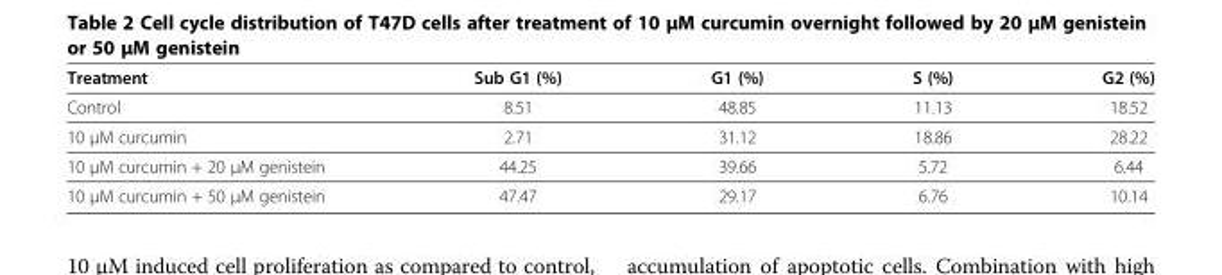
<table><thead><tr><td>Treatment</td><td>Sub G1 (%)</td><td>G1 (%)</td><td>S (%)</td><td>G2 (%)</td></tr></thead><tbody><tr><td>Control</td><td>8.51</td><td>48.85</td><td>11.13</td><td>18.52</td></tr><tr><td>10 μM curcumin</td><td>2.71</td><td>31.12</td><td>18.86</td><td>28.22</td></tr><tr><td>10 μM curcumin + 20 μM genistein</td><td>44.25</td><td>39.66</td><td>5.72</td><td>6.44</td></tr><tr><td>10 μM curcumin + 50 μM genistein</td><td>47.47</td><td>29.17</td><td>6.76</td><td>10.14</td></tr></tbody></table>